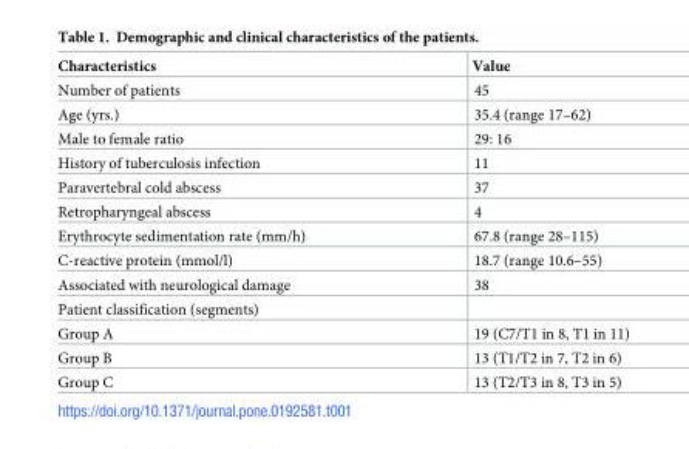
<table><thead><tr><td>Characteristics</td><td>Value</td></tr></thead><tbody><tr><td>Number of patients</td><td>45</td></tr><tr><td>Age (yrs.)</td><td>35.4 (range 17–62)</td></tr><tr><td>Male to female ratio</td><td>29: 16</td></tr><tr><td>History of tuberculosis infection</td><td>11</td></tr><tr><td>Paravertebral cold abscess</td><td>37</td></tr><tr><td>Retropharyngeal abscess</td><td>4</td></tr><tr><td>Erythrocyte sedimentation rate (mm/h)</td><td>67.8 (range 28–115)</td></tr><tr><td>C-reactive protein (mmol/l)</td><td>18.7 (range 10.6–55)</td></tr><tr><td>Associated with neurological damage</td><td>38</td></tr><tr><td colspan="2">Patient classification (segments)</td></tr><tr><td>Group A</td><td>19 (C7/T1 in 8, T1 in 11)</td></tr><tr><td>Group B</td><td>13 (T1/T2 in 7, T2 in 6)</td></tr><tr><td>Group C</td><td>13 (T2/T3 in 8, T3 in 5)</td></tr></tbody></table>